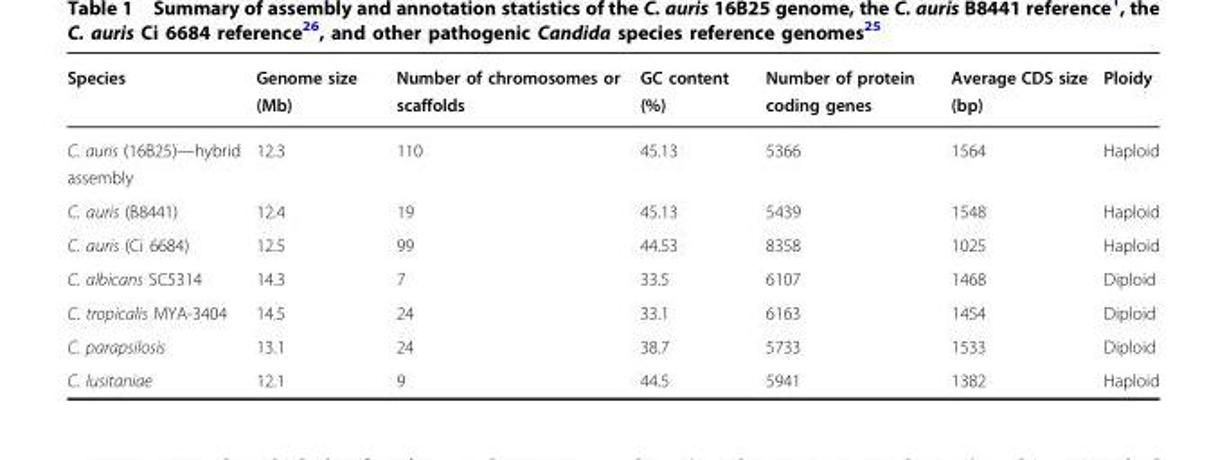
<table><thead><tr><td>Species</td><td>Genome size (Mb)</td><td>Number of chromosomes or scaffolds</td><td>GC content (%)</td><td>Number of protein coding genes</td><td>Average CDS size (bp)</td><td>Ploidy</td></tr></thead><tbody><tr><td>C. auris (16B25)—hybrid assembly</td><td>12.3</td><td>110</td><td>45.13</td><td>5366</td><td>1564</td><td>Haploid</td></tr><tr><td>C. auris (B8441)</td><td>12.4</td><td>19</td><td>45.13</td><td>5439</td><td>1548</td><td>Haploid</td></tr><tr><td>C. auris (Ci 6684)</td><td>12.5</td><td>99</td><td>44.53</td><td>8358</td><td>1025</td><td>Haploid</td></tr><tr><td>C. albicans SC5314</td><td>14.3</td><td>7</td><td>33.5</td><td>6107</td><td>1468</td><td>Diploid</td></tr><tr><td>C. tropicalis MYA-3404</td><td>14.5</td><td>24</td><td>33.1</td><td>6163</td><td>1454</td><td>Diploid</td></tr><tr><td>C. parapsilosis</td><td>13.1</td><td>24</td><td>38.7</td><td>5733</td><td>1533</td><td>Diploid</td></tr><tr><td>C. lusitaniae</td><td>12.1</td><td>9</td><td>44.5</td><td>5941</td><td>1382</td><td>Haploid</td></tr></tbody></table>